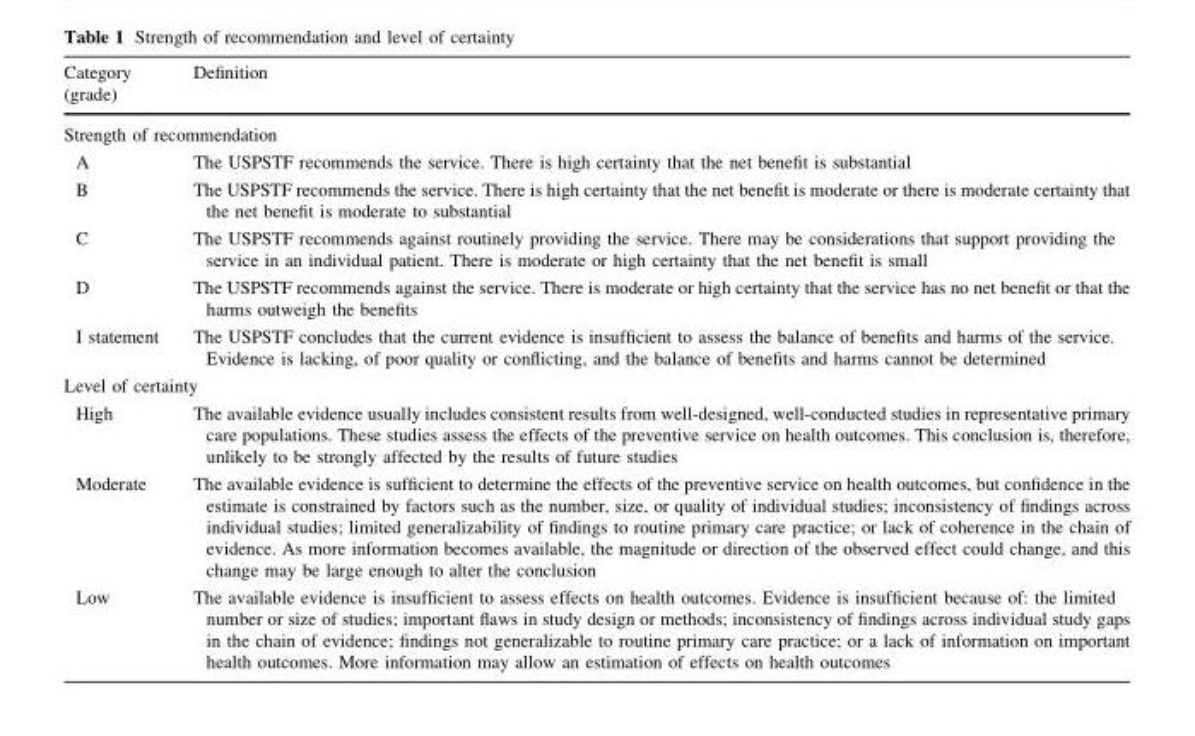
<table><thead><tr><td>Category (grade)</td><td>Definition</td></tr></thead><tbody><tr><td colspan="2">Strength of recommendation</td></tr><tr><td>A</td><td>The USPSTF recommends the service. There is high certainty that the net benefit is substantial</td></tr><tr><td>B</td><td>The USPSTF recommends the service. There is high certainty that the net benefit is moderate or there is moderate certainty that the net benefit is moderate to substantial</td></tr><tr><td>C</td><td>The USPSTF recommends against routinely providing the service. There may be considerations that support providing the service in an individual patient. There is moderate or high certainty that the net benefit is small</td></tr><tr><td>D</td><td>The USPSTF recommends against the service. There is moderate or high certainty that the service has no net benefit or that the harms outweigh the benefits</td></tr><tr><td>I statement</td><td>The USPSTF concludes that the current evidence is insufficient to assess the balance of benefits and harms of the service. Evidence is lacking, of poor quality or conflicting, and the balance of benefits and harms cannot be determined</td></tr><tr><td colspan="2">Level of certainty</td></tr><tr><td>High</td><td>The available evidence usually includes consistent results from well-designed, well-conducted studies in representative primary care populations. These studies assess the effects of the preventive service on health outcomes. This conclusion is, therefore, unlikely to be strongly affected by the results of future studies</td></tr><tr><td>Moderate</td><td>The available evidence is sufficient to determine the effects of the preventive service on health outcomes, but confidence in the estimate is constrained by factors such as the number, size, or quality of individual studies; inconsistency of findings across individual studies; limited generalizability of findings to routine primary care practice; or lack of coherence in the chain of evidence. As more information becomes available, the magnitude or direction of the observed effect could change, and this change may be large enough to alter the conclusion</td></tr><tr><td>Low</td><td>The available evidence is insufficient to assess effects on health outcomes. Evidence is insufficient because of: the limited number or size of studies; important flaws in study design or methods; inconsistency of findings across individual study gaps in the chain of evidence; findings not generalizable to routine primary care practice; or a lack of information on important health outcomes. More information may allow an estimation of effects on health outcomes</td></tr></tbody></table>